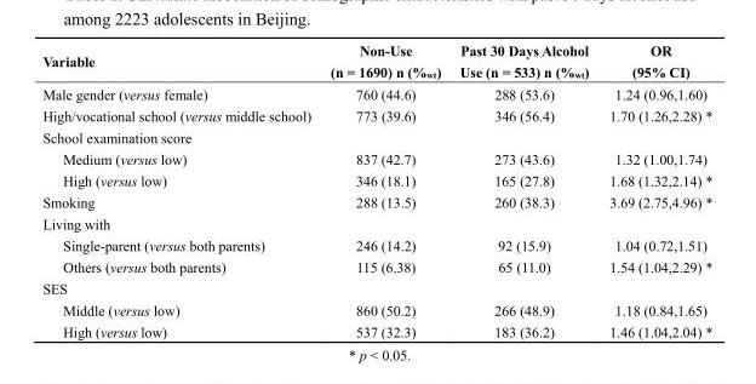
<table><thead><tr><td>Variable</td><td>Non-Use (n = 1690) n (%<sub>wt</sub>)</td><td>Past 30 Days Alcohol Use (n = 533) n (%<sub>wt</sub>)</td><td>OR (95% CI)</td></tr></thead><tbody><tr><td>Male gender (versus female)</td><td>760 (44.6)</td><td>288 (53.6)</td><td>1.24 (0.96,1.60)</td></tr><tr><td>High/vocational school (versus middle school)</td><td>773 (39.6)</td><td>346 (56.4)</td><td>1.70 (1.26,2.28) *</td></tr><tr><td colspan="4">School examination score</td></tr><tr><td>Medium (versus low)</td><td>837 (42.7)</td><td>273 (43.6)</td><td>1.32 (1.00,1.74)</td></tr><tr><td>High (versus low)</td><td>346 (18.1)</td><td>165 (27.8)</td><td>1.68 (1.32,2.14) *</td></tr><tr><td>Smoking</td><td>288 (13.5)</td><td>260 (38.3)</td><td>3.69 (2.75,4.96) *</td></tr><tr><td colspan="4">Living with</td></tr><tr><td>Single-parent (versus both parents)</td><td>246 (14.2)</td><td>92 (15.9)</td><td>1.04 (0.72,1.51)</td></tr><tr><td>Others (versus both parents)</td><td>115 (6.38)</td><td>65 (11.0)</td><td>1.54 (1.04,2.29) *</td></tr><tr><td colspan="4">SES</td></tr><tr><td>Middle (versus low)</td><td>860 (50.2)</td><td>266 (48.9)</td><td>1.18 (0.84,1.65)</td></tr><tr><td>High (versus low)</td><td>537 (32.3)</td><td>183 (36.2)</td><td>1.46 (1.04,2.04) *</td></tr></tbody></table>